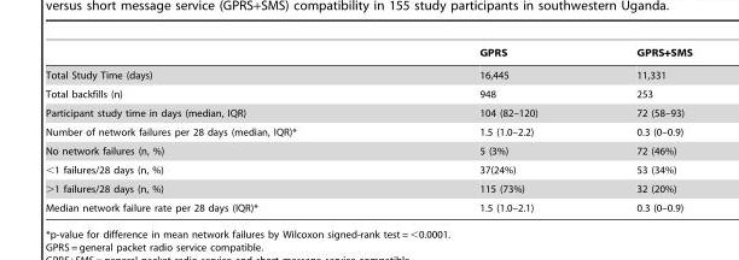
<table><thead><tr><td></td><td>GPRS</td><td>GPRS+SMS</td></tr></thead><tbody><tr><td>Total Study Time (days)</td><td>16,445</td><td>11,331</td></tr><tr><td>Total backfills (n)</td><td>948</td><td>253</td></tr><tr><td>Participant study time in days (median, IQR)</td><td>104 (82–120)</td><td>72 (58–93)</td></tr><tr><td>Number of network failures per 28 days (median, IQR)*</td><td>1.5 (1.0–2.2)</td><td>0.3 (0–0.9)</td></tr><tr><td>No network failures (n, %)</td><td>5 (3%)</td><td>72 (46%)</td></tr><tr><td>&lt;1 failures/28 days (n, %)</td><td>37(24%)</td><td>53 (34%)</td></tr><tr><td>&gt;1 failures/28 days (n, %)</td><td>115 (73%)</td><td>32 (20%)</td></tr><tr><td>Median network failure rate per 28 days (IQR)*</td><td>1.5 (1.0–2.1)</td><td>0.3 (0–0.9)</td></tr></tbody></table>